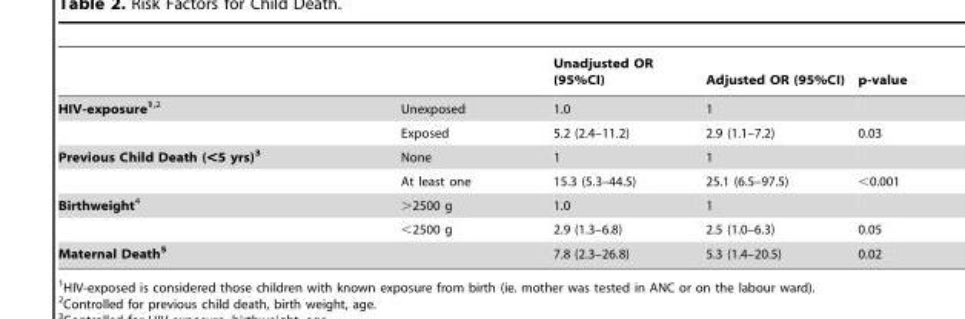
<table><thead><tr><td></td><td></td><td>Unadjusted OR (95%CI)</td><td>Adjusted OR (95%CI)</td><td>p-value</td></tr></thead><tbody><tr><td rowspan="2">HIV-exposure1<sup>,</sup>2</td><td>Unexposed</td><td>1.0</td><td>1</td><td></td></tr><tr><td>Exposed</td><td>5.2 (2.4–11.2)</td><td>2.9 (1.1–7.2)</td><td>0.03</td></tr><tr><td rowspan="2">Previous Child Death (&lt;5 yrs)3</td><td>None</td><td>1</td><td>1</td><td></td></tr><tr><td>At least one</td><td>15.3 (5.3–44.5)</td><td>25.1 (6.5–97.5)</td><td>&lt;0.001</td></tr><tr><td rowspan="2">Birthweight4</td><td>&gt;2500 g</td><td>1.0</td><td>1</td><td></td></tr><tr><td>&lt;2500 g</td><td>2.9 (1.3–6.8)</td><td>2.5 (1.0–6.3)</td><td>0.05</td></tr><tr><td>Maternal Death5</td><td></td><td>7.8 (2.3–26.8)</td><td>5.3 (1.4–20.5)</td><td>0.02</td></tr></tbody></table>